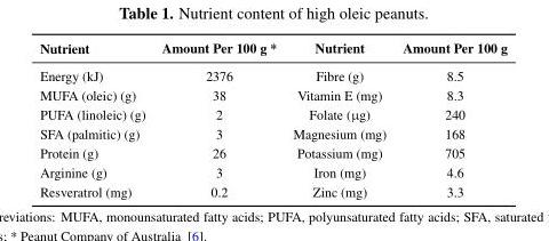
<table><thead><tr><td>Nutrient</td><td>Amount Per 100 g *</td><td>Nutrient</td><td>Amount Per 100 g</td></tr></thead><tbody><tr><td>Energy (kJ)</td><td>2376</td><td>Fibre (g)</td><td>8.5</td></tr><tr><td>MUFA (oleic) (g)</td><td>38</td><td>Vitamin E (mg)</td><td>8.3</td></tr><tr><td>PUFA (linoleic) (g)</td><td>2</td><td>Folate (µg)</td><td>240</td></tr><tr><td>SFA (palmitic) (g)</td><td>3</td><td>Magnesium (mg)</td><td>168</td></tr><tr><td>Protein (g)</td><td>26</td><td>Potassium (mg)</td><td>705</td></tr><tr><td>Arginine (g)</td><td>3</td><td>Iron (mg)</td><td>4.6</td></tr><tr><td>Resveratrol (mg)</td><td>0.2</td><td>Zinc (mg)</td><td>3.3</td></tr></tbody></table>